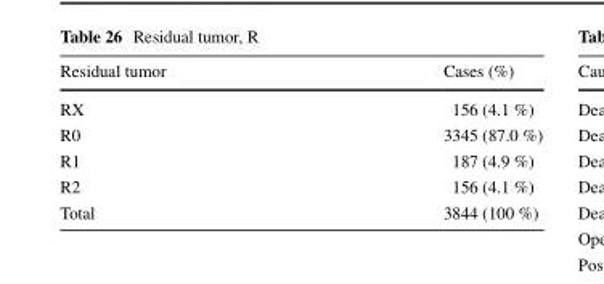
<table><thead><tr><td>Residual tumor</td><td>Cases (%)</td></tr></thead><tbody><tr><td>RX</td><td>156 (4.1 %)</td></tr><tr><td>R0</td><td>3345 (87.0 %)</td></tr><tr><td>R1</td><td>187 (4.9 %)</td></tr><tr><td>R2</td><td>156 (4.1 %)</td></tr><tr><td>Total</td><td>3844 (100 %)</td></tr></tbody></table>